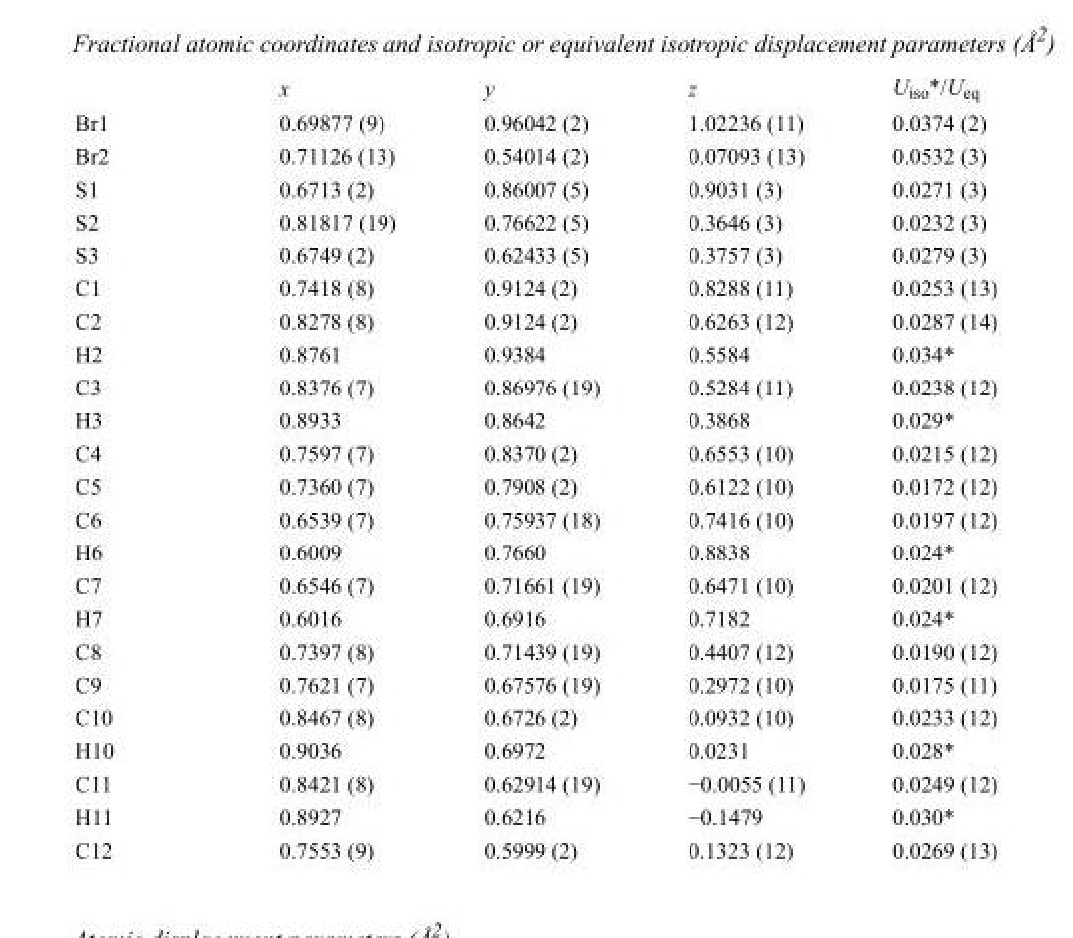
<table><thead><tr><td></td><td>x</td><td>y</td><td>z</td><td>U<sub>iso</sub>*/U<sub>eq</sub></td></tr></thead><tbody><tr><td>Br1</td><td>0.69877 (9)</td><td>0.96042 (2)</td><td>1.02236 (11)</td><td>0.0374 (2)</td></tr><tr><td>Br2</td><td>0.71126 (13)</td><td>0.54014 (2)</td><td>0.07093 (13)</td><td>0.0532 (3)</td></tr><tr><td>S1</td><td>0.6713 (2)</td><td>0.86007 (5)</td><td>0.9031 (3)</td><td>0.0271 (3)</td></tr><tr><td>S2</td><td>0.81817 (19)</td><td>0.76622 (5)</td><td>0.3646 (3)</td><td>0.0232 (3)</td></tr><tr><td>S3</td><td>0.6749 (2)</td><td>0.62433 (5)</td><td>0.3757 (3)</td><td>0.0279 (3)</td></tr><tr><td>C1</td><td>0.7418 (8)</td><td>0.9124 (2)</td><td>0.8288 (11)</td><td>0.0253 (13)</td></tr><tr><td>C2</td><td>0.8278 (8)</td><td>0.9124 (2)</td><td>0.6263 (12)</td><td>0.0287 (14)</td></tr><tr><td>H2</td><td>0.8761</td><td>0.9384</td><td>0.5584</td><td>0.034*</td></tr><tr><td>C3</td><td>0.8376 (7)</td><td>0.86976 (19)</td><td>0.5284 (11)</td><td>0.0238 (12)</td></tr><tr><td>H3</td><td>0.8933</td><td>0.8642</td><td>0.3868</td><td>0.029*</td></tr><tr><td>C4</td><td>0.7597 (7)</td><td>0.8370 (2)</td><td>0.6553 (10)</td><td>0.0215 (12)</td></tr><tr><td>C5</td><td>0.7360 (7)</td><td>0.7908 (2)</td><td>0.6122 (10)</td><td>0.0172 (12)</td></tr><tr><td>C6</td><td>0.6539 (7)</td><td>0.75937 (18)</td><td>0.7416 (10)</td><td>0.0197 (12)</td></tr><tr><td>H6</td><td>0.6009</td><td>0.7660</td><td>0.8838</td><td>0.024*</td></tr><tr><td>C7</td><td>0.6546 (7)</td><td>0.71661 (19)</td><td>0.6471 (10)</td><td>0.0201 (12)</td></tr><tr><td>H7</td><td>0.6016</td><td>0.6916</td><td>0.7182</td><td>0.024*</td></tr><tr><td>C8</td><td>0.7397 (8)</td><td>0.71439 (19)</td><td>0.4407 (12)</td><td>0.0190 (12)</td></tr><tr><td>C9</td><td>0.7621 (7)</td><td>0.67576 (19)</td><td>0.2972 (10)</td><td>0.0175 (11)</td></tr><tr><td>C10</td><td>0.8467 (8)</td><td>0.6726 (2)</td><td>0.0932 (10)</td><td>0.0233 (12)</td></tr><tr><td>H10</td><td>0.9036</td><td>0.6972</td><td>0.0231</td><td>0.028*</td></tr><tr><td>C11</td><td>0.8421 (8)</td><td>0.62914 (19)</td><td>−0.0055 (11)</td><td>0.0249 (12)</td></tr><tr><td>H11</td><td>0.8927</td><td>0.6216</td><td>−0.1479</td><td>0.030*</td></tr><tr><td>C12</td><td>0.7553 (9)</td><td>0.5999 (2)</td><td>0.1323 (12)</td><td>0.0269 (13)</td></tr></tbody></table>